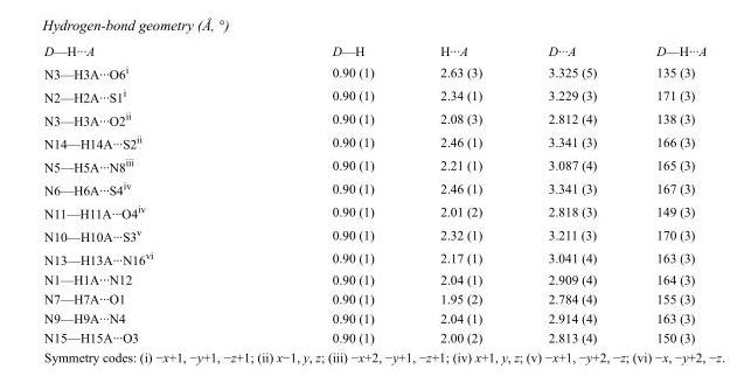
<table><tbody><tr><td>D—H···A</td><td>D—H</td><td>H···A</td><td>D···A</td><td>D—H···A</td></tr><tr><td>N3—H3A···O6<sup>i</sup></td><td>0.90 (1)</td><td>2.63 (3)</td><td>3.325 (5)</td><td>135 (3)</td></tr><tr><td>N2—H2A···S1<sup>i</sup></td><td>0.90 (1)</td><td>2.34 (1)</td><td>3.229 (3)</td><td>171 (3)</td></tr><tr><td>N3—H3A···O2<sup>ii</sup></td><td>0.90 (1)</td><td>2.08 (3)</td><td>2.812 (4)</td><td>138 (3)</td></tr><tr><td>N14—H14A···S2<sup>ii</sup></td><td>0.90 (1)</td><td>2.46 (1)</td><td>3.341 (3)</td><td>166 (3)</td></tr><tr><td>N5—H5A···N8<sup>iii</sup></td><td>0.90 (1)</td><td>2.21 (1)</td><td>3.087 (4)</td><td>165 (3)</td></tr><tr><td>N6—H6A···S4<sup>iv</sup></td><td>0.90 (1)</td><td>2.46 (1)</td><td>3.341 (3)</td><td>167 (3)</td></tr><tr><td>N11—H11A···O4<sup>iv</sup></td><td>0.90 (1)</td><td>2.01 (2)</td><td>2.818 (3)</td><td>149 (3)</td></tr><tr><td>N10—H10A···S3<sup>v</sup></td><td>0.90 (1)</td><td>2.32 (1)</td><td>3.211 (3)</td><td>170 (3)</td></tr><tr><td>N13—H13A···N16<sup>vi</sup></td><td>0.90 (1)</td><td>2.17 (1)</td><td>3.041 (4)</td><td>163 (3)</td></tr><tr><td>N1—H1A···N12</td><td>0.90 (1)</td><td>2.04 (1)</td><td>2.909 (4)</td><td>164 (3)</td></tr><tr><td>N7—H7A···O1</td><td>0.90 (1)</td><td>1.95 (2)</td><td>2.784 (4)</td><td>155 (3)</td></tr><tr><td>N9—H9A···N4</td><td>0.90 (1)</td><td>2.04 (1)</td><td>2.914 (4)</td><td>163 (3)</td></tr><tr><td>N15—H15A···O3</td><td>0.90 (1)</td><td>2.00 (2)</td><td>2.813 (4)</td><td>150 (3)</td></tr></tbody></table>